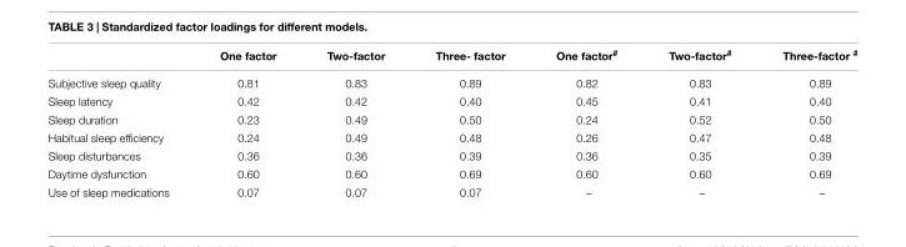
<table><thead><tr><td></td><td>One factor</td><td>Two-factor</td><td>Three- factor</td><td>One factor<sup>#</sup></td><td>Two-factor<sup>#</sup></td><td>Three-factor <sup>#</sup></td></tr></thead><tbody><tr><td>Subjective sleep quality</td><td>0.81</td><td>0.83</td><td>0.89</td><td>0.82</td><td>0.83</td><td>0.89</td></tr><tr><td>Sleep latency</td><td>0.42</td><td>0.42</td><td>0.40</td><td>0.45</td><td>0.41</td><td>0.40</td></tr><tr><td>Sleep duration</td><td>0.23</td><td>0.49</td><td>0.50</td><td>0.24</td><td>0.52</td><td>0.50</td></tr><tr><td>Habitual sleep efficiency</td><td>0.24</td><td>0.49</td><td>0.48</td><td>0.26</td><td>0.47</td><td>0.48</td></tr><tr><td>Sleep disturbances</td><td>0.36</td><td>0.36</td><td>0.39</td><td>0.36</td><td>0.35</td><td>0.39</td></tr><tr><td>Daytime dysfunction</td><td>0.60</td><td>0.60</td><td>0.69</td><td>0.60</td><td>0.60</td><td>0.69</td></tr><tr><td>Use of sleep medications</td><td>0.07</td><td>0.07</td><td>0.07</td><td>–</td><td>–</td><td>–</td></tr></tbody></table>